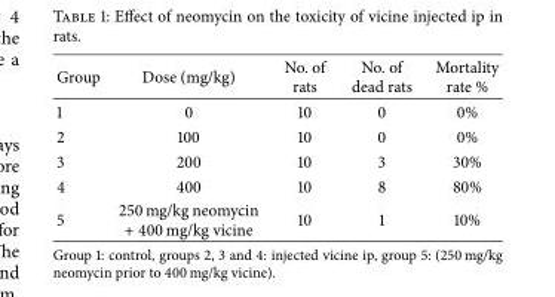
<table><thead><tr><td>Group</td><td>Dose (mg/kg)</td><td>No. of rats</td><td>No. of dead rats</td><td>Mortality rate %</td></tr></thead><tbody><tr><td>1</td><td>0</td><td>10</td><td>0</td><td>0%</td></tr><tr><td>2</td><td>100</td><td>10</td><td>0</td><td>0%</td></tr><tr><td>3</td><td>200</td><td>10</td><td>3</td><td>30%</td></tr><tr><td>4</td><td>400</td><td>10</td><td>8</td><td>80%</td></tr><tr><td>5</td><td>250 mg/kg neomycin + 400 mg/kg vicine</td><td>10</td><td>1</td><td>10%</td></tr></tbody></table>